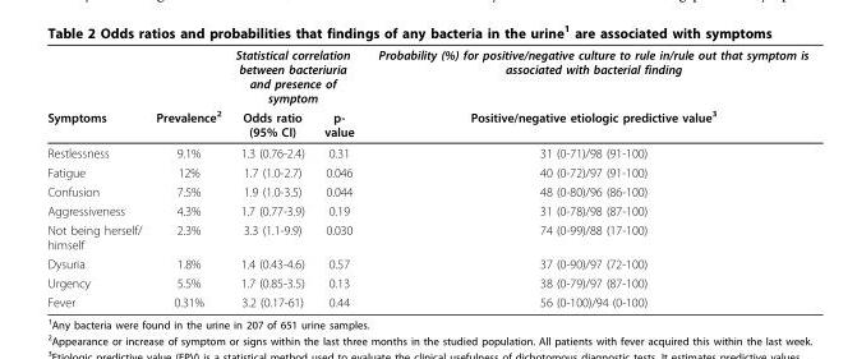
<table><thead><tr><td rowspan="2">Symptoms</td><td rowspan="2">Prevalence<sup>2</sup></td><td colspan="2">Statistical correlation between bacteriuria and presence of symptom</td><td rowspan="2">Probability (%) for positive/negative culture to rule in/rule out that symptom is associated with bacterial finding Positive/negative etiologic predictive value<sup>3</sup></td></tr><tr><td>Odds ratio (95% CI)</td><td>p- value</td></tr></thead><tbody><tr><td>Restlessness</td><td>9.1%</td><td>1.3 (0.76-2.4)</td><td>0.31</td><td>31 (0-71)/98 (91-100)</td></tr><tr><td>Fatigue</td><td>12%</td><td>1.7 (1.0-2.7)</td><td>0.046</td><td>40 (0-72)/97 (91-100)</td></tr><tr><td>Confusion</td><td>7.5%</td><td>1.9 (1.0-3.5)</td><td>0.044</td><td>48 (0-80)/96 (86-100)</td></tr><tr><td>Aggressiveness</td><td>4.3%</td><td>1.7 (0.77-3.9)</td><td>0.19</td><td>31 (0-78)/98 (87-100)</td></tr><tr><td>Not being herself/ himself</td><td>2.3%</td><td>3.3 (1.1-9.9)</td><td>0.030</td><td>74 (0-99)/88 (17-100)</td></tr><tr><td>Dysuria</td><td>1.8%</td><td>1.4 (0.43-4.6)</td><td>0.57</td><td>37 (0-90)/97 (72-100)</td></tr><tr><td>Urgency</td><td>5.5%</td><td>1.7 (0.85-3.5)</td><td>0.13</td><td>38 (0-79)/97 (87-100)</td></tr><tr><td>Fever</td><td>0.31%</td><td>3.2 (0.17-61)</td><td>0.44</td><td>56 (0-100)/94 (0-100)</td></tr></tbody></table>